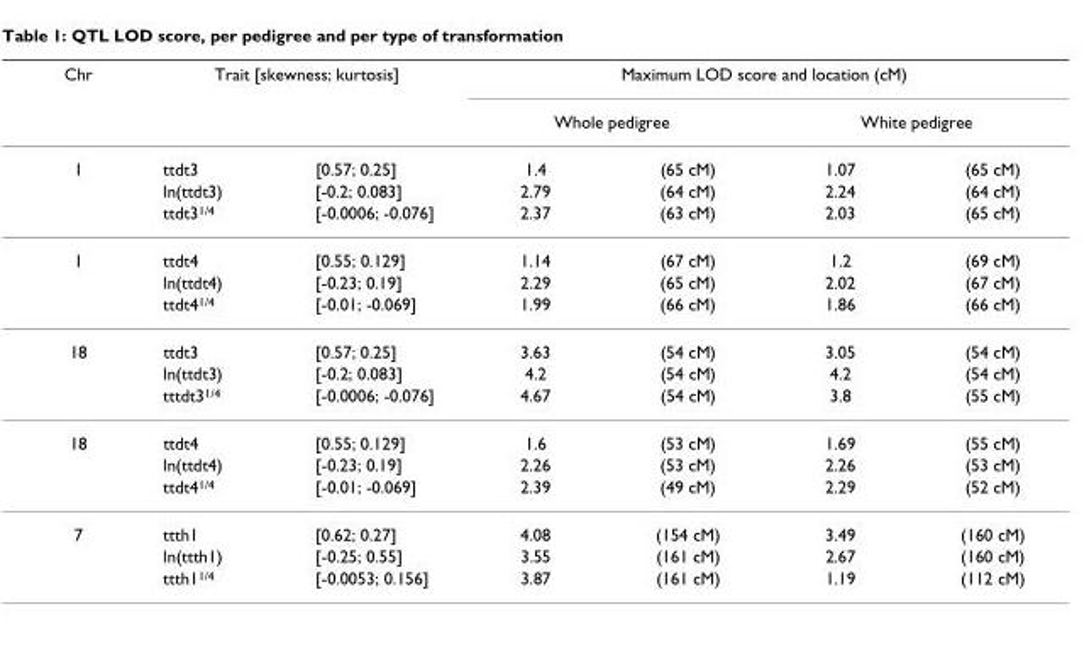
<table><thead><tr><td rowspan="3">Chr 1</td><td colspan="2">Trait [skewness; kurtosis]</td><td colspan="4">Maximum LOD score and location (cM)</td></tr><tr><td rowspan="2">ttdt3</td><td rowspan="2">[0.57; 0.25]</td><td colspan="2">Whole pedigree</td><td colspan="2">White pedigree</td></tr><tr><td>1.4</td><td>(65 cM)</td><td>1.07</td><td>(65 cM)</td></tr></thead><tbody><tr><td></td><td>ln(ttdt3)</td><td>[-0.2; 0.083]</td><td>2.79</td><td>(64 cM)</td><td>2.24</td><td>(64 cM)</td></tr><tr><td></td><td>ttdt31/4</td><td>[-0.0006; -0.076]</td><td>2.37</td><td>(63 cM)</td><td>2.03</td><td>(65 cM)</td></tr><tr><td rowspan="3">1</td><td>ttdt4</td><td>[0.55; 0.129]</td><td>1.14</td><td>(67 cM)</td><td>1.2</td><td>(69 cM)</td></tr><tr><td>ln(ttdt4)</td><td>[-0.23; 0.19]</td><td>2.29</td><td>(65 cM)</td><td>2.02</td><td>(67 cM)</td></tr><tr><td>ttdt41/4</td><td>[-0.01; -0.069]</td><td>1.99</td><td>(66 cM)</td><td>1.86</td><td>(66 cM)</td></tr><tr><td rowspan="3">18</td><td>ttdt3</td><td>[0.57; 0.25]</td><td>3.63</td><td>(54 cM)</td><td>3.05</td><td>(54 cM)</td></tr><tr><td>ln(ttdt3)</td><td>[-0.2; 0.083]</td><td>4.2</td><td>(54 cM)</td><td>4.2</td><td>(54 cM)</td></tr><tr><td>tttdt31/4</td><td>[-0.0006; -0.076]</td><td>4.67</td><td>(54 cM)</td><td>3.8</td><td>(55 cM)</td></tr><tr><td rowspan="3">18</td><td>ttdt4</td><td>[0.55; 0.129]</td><td>1.6</td><td>(53 cM)</td><td>1.69</td><td>(55 cM)</td></tr><tr><td>ln(ttdt4)</td><td>[-0.23; 0.19]</td><td>2.26</td><td>(53 cM)</td><td>2.26</td><td>(53 cM)</td></tr><tr><td>ttdt41/4</td><td>[-0.01; -0.069]</td><td>2.39</td><td>(49 cM)</td><td>2.29</td><td>(52 cM)</td></tr><tr><td rowspan="3">7</td><td>ttth1</td><td>[0.62; 0.27]</td><td>4.08</td><td>(154 cM)</td><td>3.49</td><td>(160 cM)</td></tr><tr><td>ln(ttth1)</td><td>[-0.25; 0.55]</td><td>3.55</td><td>(161 cM)</td><td>2.67</td><td>(160 cM)</td></tr><tr><td>ttth11/4</td><td>[-0.0053; 0.156]</td><td>3.87</td><td>(161 cM)</td><td>1.19</td><td>(112 cM)</td></tr></tbody></table>